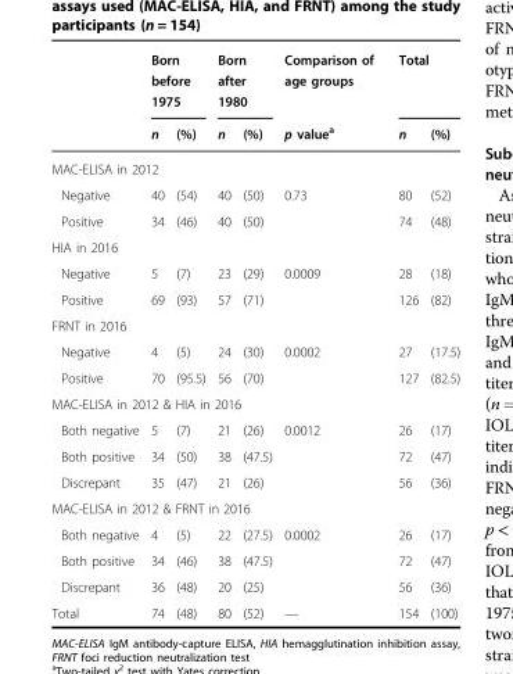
<table><thead><tr><td rowspan="2"></td><td colspan="2">Born before 1975</td><td colspan="2">Born after 1980</td><td rowspan="2">Comparison of age groups p value<sup>a</sup></td><td colspan="2">Total</td></tr><tr><td>n</td><td>(%)</td><td>n</td><td>(%)</td><td>n</td><td>(%)</td></tr></thead><tbody><tr><td colspan="8">MAC-ELISA in 2012</td></tr><tr><td>Negative</td><td>40</td><td>(54)</td><td>40</td><td>(50)</td><td rowspan="2">0.73</td><td>80</td><td>(52)</td></tr><tr><td>Positive</td><td>34</td><td>(46)</td><td>40</td><td>(50)</td><td>74</td><td>(48)</td></tr><tr><td colspan="8">HIA in 2016</td></tr><tr><td>Negative</td><td>5</td><td>(7)</td><td>23</td><td>(29)</td><td rowspan="2">0.0009</td><td>28</td><td>(18)</td></tr><tr><td>Positive</td><td>69</td><td>(93)</td><td>57</td><td>(71)</td><td>126</td><td>(82)</td></tr><tr><td colspan="8">FRNT in 2016</td></tr><tr><td>Negative</td><td>4</td><td>(5)</td><td>24</td><td>(30)</td><td rowspan="2">0.0002</td><td>27</td><td>(17.5)</td></tr><tr><td>Positive</td><td>70</td><td>(95.5)</td><td>56</td><td>(70)</td><td>127</td><td>(82.5)</td></tr><tr><td colspan="8">MAC-ELISA in 2012 &amp; HIA in 2016</td></tr><tr><td>Both negative</td><td>5</td><td>(7)</td><td>21</td><td>(26)</td><td rowspan="3">0.0012</td><td>26</td><td>(17)</td></tr><tr><td>Both positive</td><td>34</td><td>(50)</td><td>38</td><td>(47.5)</td><td>72</td><td>(47)</td></tr><tr><td>Discrepant</td><td>35</td><td>(47)</td><td>21</td><td>(26)</td><td>56</td><td>(36)</td></tr><tr><td colspan="8">MAC-ELISA in 2012 &amp; FRNT in 2016</td></tr><tr><td>Both negative</td><td>4</td><td>(5)</td><td>22</td><td>(27.5)</td><td rowspan="3">0.0002</td><td>26</td><td>(17)</td></tr><tr><td>Both positive</td><td>34</td><td>(46)</td><td>38</td><td>(47.5)</td><td>72</td><td>(47)</td></tr><tr><td>Discrepant</td><td>36</td><td>(48)</td><td>20</td><td>(25)</td><td>56</td><td>(36)</td></tr><tr><td>Total</td><td>74</td><td>(48)</td><td>80</td><td>(52)</td><td>—</td><td>154</td><td>(100)</td></tr></tbody></table>